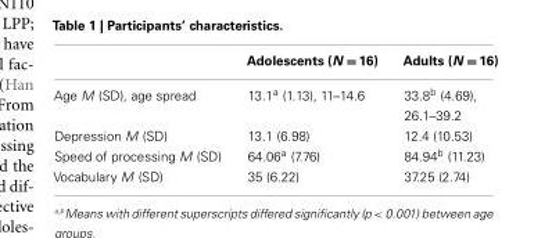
<table><thead><tr><td></td><td>Adolescents (N = 16)</td><td>Adults (N = 16)</td></tr></thead><tbody><tr><td>Age M (SD), age spread</td><td>13.1<sup>a</sup> (1.13), 11–14.6</td><td>33.8<sup>b</sup> (4.69), 26.1–39.2</td></tr><tr><td>Depression M (SD)</td><td>13.1 (6.98)</td><td>12.4 (10.53)</td></tr><tr><td>Speed of processing M (SD)</td><td>64.06<sup>a</sup> (7.76)</td><td>84.94<sup>b</sup> (11.23)</td></tr><tr><td>Vocabulary M (SD)</td><td>35 (6.22)</td><td>37.25 (2.74)</td></tr></tbody></table>